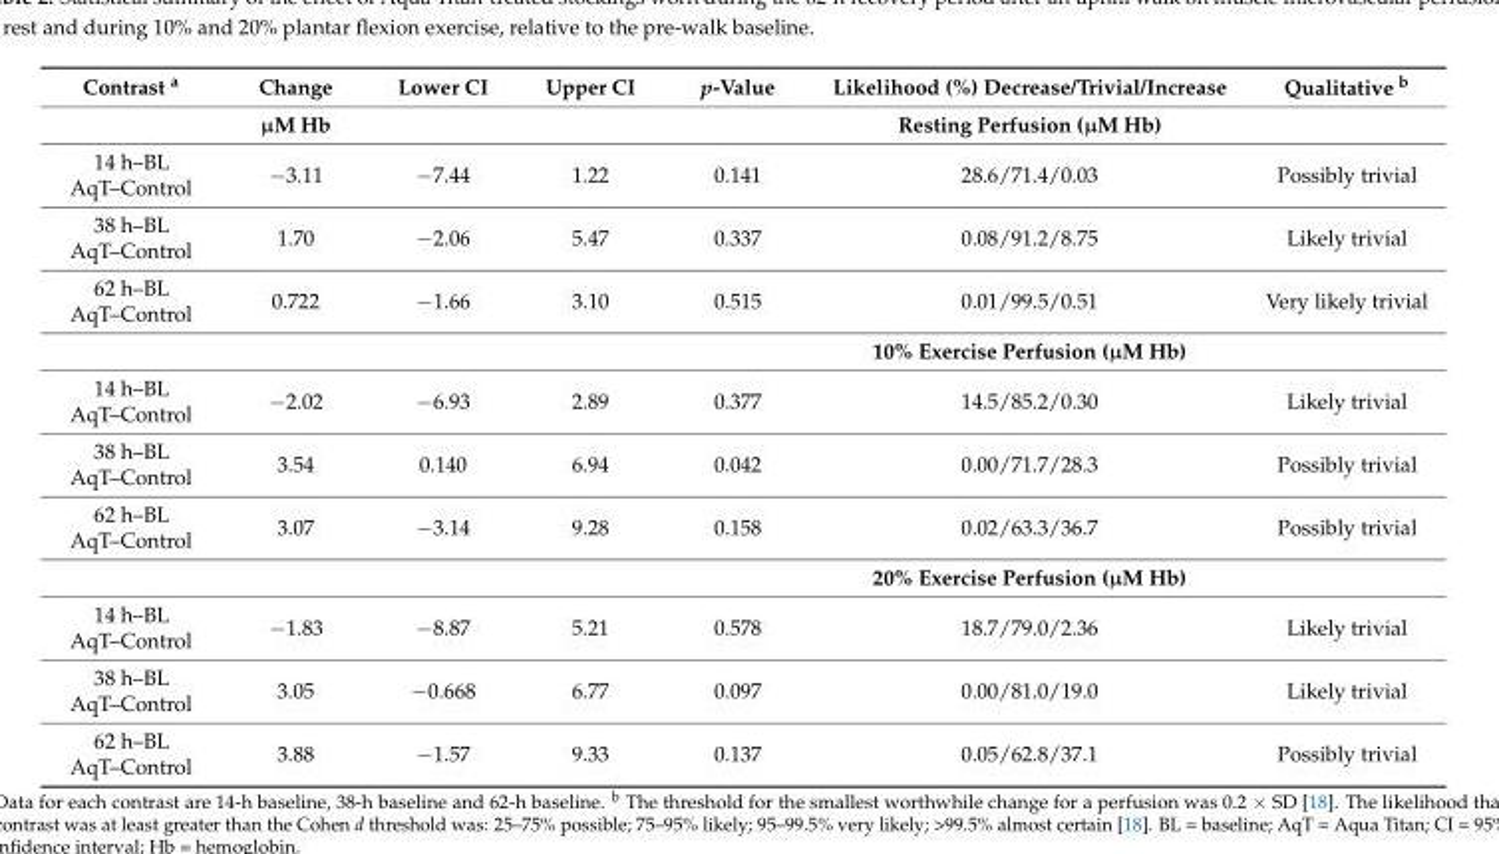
<table><thead><tr><td>Contrast <sup>a</sup></td><td>Change</td><td>Lower CI</td><td>Upper CI</td><td>p-Value</td><td>Likelihood (%) Decrease/Trivial/Increase</td><td>Qualitative <sup>b</sup></td></tr></thead><tbody><tr><td></td><td>µM Hb</td><td></td><td></td><td></td><td>Resting Perfusion (µM Hb)</td><td></td></tr><tr><td>14 h–BL AqT–Control</td><td>−3.11</td><td>−7.44</td><td>1.22</td><td>0.141</td><td>28.6/71.4/0.03</td><td>Possibly trivial</td></tr><tr><td>38 h–BL AqT–Control</td><td>1.70</td><td>−2.06</td><td>5.47</td><td>0.337</td><td>0.08/91.2/8.75</td><td>Likely trivial</td></tr><tr><td rowspan="2">62 h–BL AqT–Control</td><td>0.722</td><td>−1.66</td><td>3.10</td><td>0.515</td><td>0.01/99.5/0.51</td><td>Very likely trivial</td></tr><tr><td></td><td></td><td></td><td></td><td>10% Exercise Perfusion (µM Hb)</td><td></td></tr><tr><td>14 h–BL AqT–Control</td><td>−2.02</td><td>−6.93</td><td>2.89</td><td>0.377</td><td>14.5/85.2/0.30</td><td>Likely trivial</td></tr><tr><td>38 h–BL AqT–Control</td><td>3.54</td><td>0.140</td><td>6.94</td><td>0.042</td><td>0.00/71.7/28.3</td><td>Possibly trivial</td></tr><tr><td rowspan="2">62 h–BL AqT–Control</td><td>3.07</td><td>−3.14</td><td>9.28</td><td>0.158</td><td>0.02/63.3/36.7</td><td>Possibly trivial</td></tr><tr><td></td><td></td><td></td><td></td><td>20% Exercise Perfusion (µM Hb)</td><td></td></tr><tr><td>14 h–BL AqT–Control</td><td>−1.83</td><td>−8.87</td><td>5.21</td><td>0.578</td><td>18.7/79.0/2.36</td><td>Likely trivial</td></tr><tr><td>38 h–BL AqT–Control</td><td>3.05</td><td>−0.668</td><td>6.77</td><td>0.097</td><td>0.00/81.0/19.0</td><td>Likely trivial</td></tr><tr><td>62 h–BL AqT–Control</td><td>3.88</td><td>−1.57</td><td>9.33</td><td>0.137</td><td>0.05/62.8/37.1</td><td>Possibly trivial</td></tr></tbody></table>